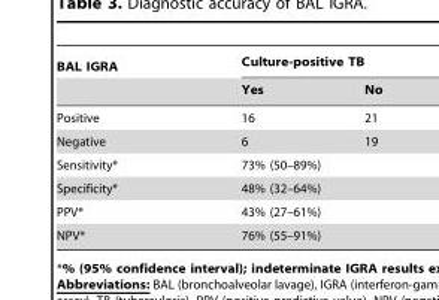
<table><thead><tr><td rowspan="2">BAL IGRA</td><td colspan="2">Culture-positive TB</td></tr><tr><td>Yes</td><td>No</td></tr></thead><tbody><tr><td>Positive</td><td>16</td><td>21</td></tr><tr><td>Negative</td><td>6</td><td>19</td></tr><tr><td>Sensitivity*</td><td colspan="2">73% (50–89%)</td></tr><tr><td>Specificity*</td><td colspan="2">48% (32–64%)</td></tr><tr><td>PPV*</td><td colspan="2">43% (27–61%)</td></tr><tr><td>NPV*</td><td colspan="2">76% (55–91%)</td></tr></tbody></table>